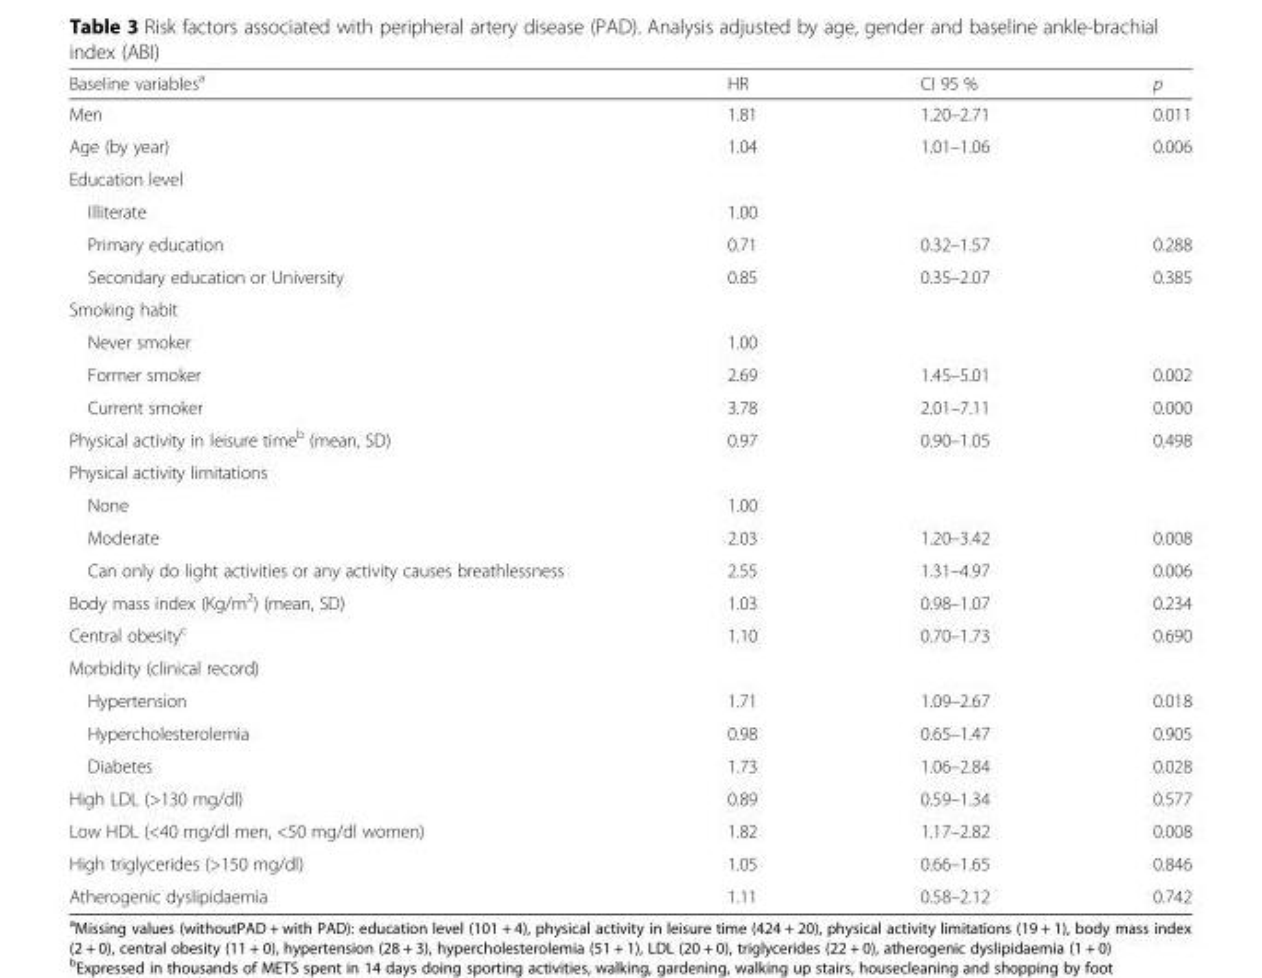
<table><thead><tr><td>Baseline variables<sup>a</sup></td><td>HR</td><td>CI 95 %</td><td>p</td></tr></thead><tbody><tr><td>Men</td><td>1.81</td><td>1.20–2.71</td><td>0.011</td></tr><tr><td>Age (by year)</td><td>1.04</td><td>1.01–1.06</td><td>0.006</td></tr><tr><td colspan="4">Education level</td></tr><tr><td>Illiterate</td><td>1.00</td><td></td><td></td></tr><tr><td>Primary education</td><td>0.71</td><td>0.32–1.57</td><td>0.288</td></tr><tr><td>Secondary education or University</td><td>0.85</td><td>0.35–2.07</td><td>0.385</td></tr><tr><td colspan="4">Smoking habit</td></tr><tr><td>Never smoker</td><td>1.00</td><td></td><td></td></tr><tr><td>Former smoker</td><td>2.69</td><td>1.45–5.01</td><td>0.002</td></tr><tr><td>Current smoker</td><td>3.78</td><td>2.01–7.11</td><td>0.000</td></tr><tr><td>Physical activity in leisure time<sup>b</sup> (mean, SD)</td><td>0.97</td><td>0.90–1.05</td><td>0.498</td></tr><tr><td colspan="4">Physical activity limitations</td></tr><tr><td>None</td><td>1.00</td><td></td><td></td></tr><tr><td>Moderate</td><td>2.03</td><td>1.20–3.42</td><td>0.008</td></tr><tr><td>Can only do light activities or any activity causes breathlessness</td><td>2.55</td><td>1.31–4.97</td><td>0.006</td></tr><tr><td>Body mass index (Kg/m<sup>2</sup>) (mean, SD)</td><td>1.03</td><td>0.98–1.07</td><td>0.234</td></tr><tr><td>Central obesity<sup>c</sup></td><td>1.10</td><td>0.70–1.73</td><td>0.690</td></tr><tr><td colspan="4">Morbidity (clinical record)</td></tr><tr><td>Hypertension</td><td>1.71</td><td>1.09–2.67</td><td>0.018</td></tr><tr><td>Hypercholesterolemia</td><td>0.98</td><td>0.65–1.47</td><td>0.905</td></tr><tr><td>Diabetes</td><td>1.73</td><td>1.06–2.84</td><td>0.028</td></tr><tr><td>High LDL (&gt;130 mg/dl)</td><td>0.89</td><td>0.59–1.34</td><td>0.577</td></tr><tr><td>Low HDL (&lt;40 mg/dl men, &lt;50 mg/dl women)</td><td>1.82</td><td>1.17–2.82</td><td>0.008</td></tr><tr><td>High triglycerides (&gt;150 mg/dl)</td><td>1.05</td><td>0.66–1.65</td><td>0.846</td></tr><tr><td>Atherogenic dyslipidaemia</td><td>1.11</td><td>0.58–2.12</td><td>0.742</td></tr></tbody></table>